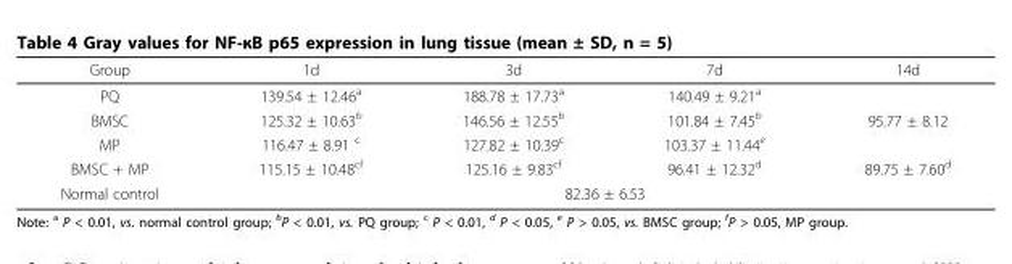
<table><thead><tr><td>Group</td><td>1d</td><td>3d</td><td>7d</td><td>14d</td></tr></thead><tbody><tr><td>PQ</td><td>139.54 ± 12.46<sup>a</sup></td><td>188.78 ± 17.73<sup>a</sup></td><td>140.49 ± 9.21<sup>a</sup></td><td></td></tr><tr><td>BMSC</td><td>125.32 ± 10.63<sup>b</sup></td><td>146.56 ± 12.55<sup>b</sup></td><td>101.84 ± 7.45<sup>b</sup></td><td>95.77 ± 8.12</td></tr><tr><td>MP</td><td>116.47 ± 8.91 <sup>c</sup></td><td>127.82 ± 10.39<sup>c</sup></td><td>103.37 ± 11.44<sup>e</sup></td><td></td></tr><tr><td>BMSC + MP</td><td>115.15 ± 10.48<sup>cf</sup></td><td>125.16 ± 9.83<sup>cf</sup></td><td>96.41 ± 12.32<sup>d</sup></td><td>89.75 ± 7.60<sup>d</sup></td></tr><tr><td>Normal control</td><td colspan="4">82.36 ± 6.53</td></tr></tbody></table>